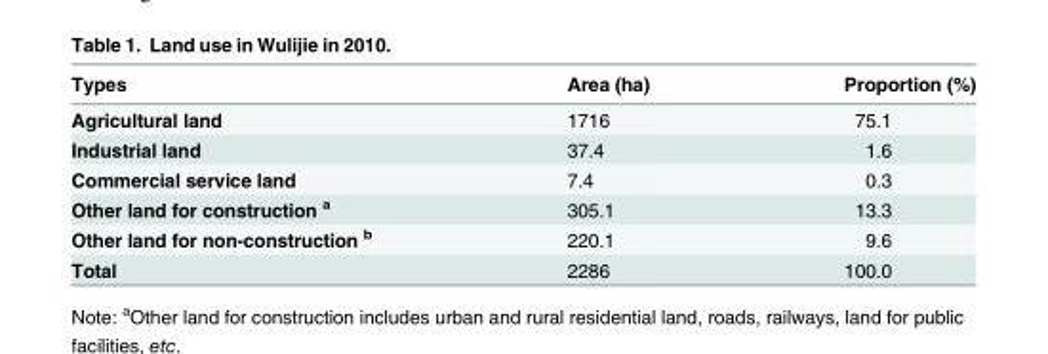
<table><thead><tr><td>Types</td><td>Area (ha)</td><td>Proportion (%)</td></tr></thead><tbody><tr><td>Agricultural land</td><td>1716</td><td>75.1</td></tr><tr><td>Industrial land</td><td>37.4</td><td>1.6</td></tr><tr><td>Commercial service land</td><td>7.4</td><td>0.3</td></tr><tr><td>Other land for construction <sup>a</sup></td><td>305.1</td><td>13.3</td></tr><tr><td>Other land for non-construction <sup>b</sup></td><td>220.1</td><td>9.6</td></tr><tr><td>Total</td><td>2286</td><td>100.0</td></tr></tbody></table>